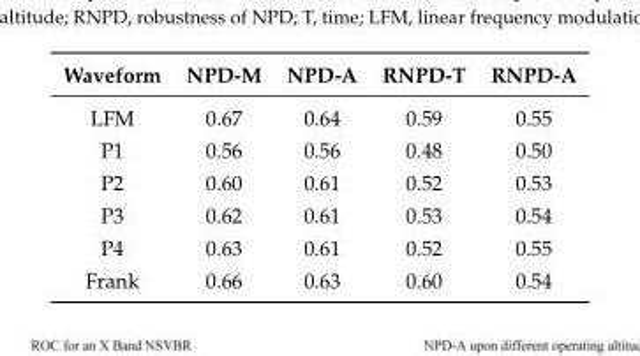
<table><thead><tr><td>Waveform</td><td>NPD-M</td><td>NPD-A</td><td>RNPD-T</td><td>RNPD-A</td></tr></thead><tbody><tr><td>LFM</td><td>0.67</td><td>0.64</td><td>0.59</td><td>0.55</td></tr><tr><td>P1</td><td>0.56</td><td>0.56</td><td>0.48</td><td>0.50</td></tr><tr><td>P2</td><td>0.60</td><td>0.61</td><td>0.52</td><td>0.53</td></tr><tr><td>P3</td><td>0.62</td><td>0.61</td><td>0.53</td><td>0.54</td></tr><tr><td>P4</td><td>0.63</td><td>0.61</td><td>0.52</td><td>0.55</td></tr><tr><td>Frank</td><td>0.66</td><td>0.63</td><td>0.60</td><td>0.54</td></tr></tbody></table>